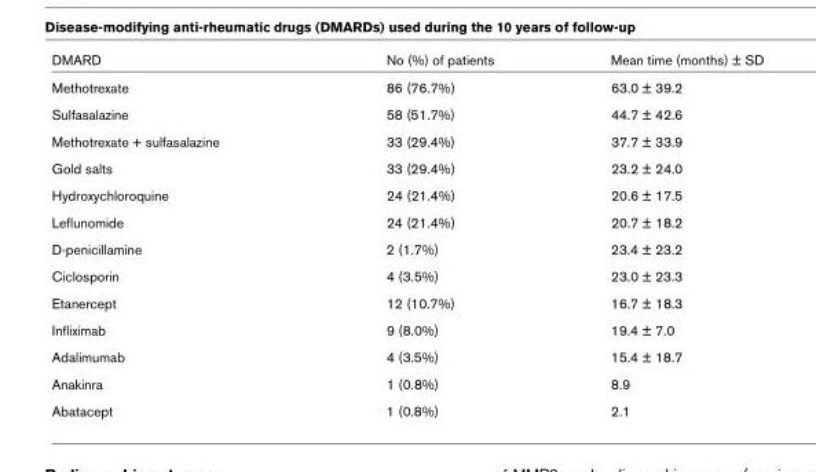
<table><thead><tr><td>DMARD</td><td>No (%) of patients</td><td>Mean time (months) ± SD</td></tr></thead><tbody><tr><td>Methotrexate</td><td>86 (76.7%)</td><td>63.0 ± 39.2</td></tr><tr><td>Sulfasalazine</td><td>58 (51.7%)</td><td>44.7 ± 42.6</td></tr><tr><td>Methotrexate + sulfasalazine</td><td>33 (29.4%)</td><td>37.7 ± 33.9</td></tr><tr><td>Gold salts</td><td>33 (29.4%)</td><td>23.2 ± 24.0</td></tr><tr><td>Hydroxychloroquine</td><td>24 (21.4%)</td><td>20.6 ± 17.5</td></tr><tr><td>Leflunomide</td><td>24 (21.4%)</td><td>20.7 ± 18.2</td></tr><tr><td>D-penicillamine</td><td>2 (1.7%)</td><td>23.4 ± 23.2</td></tr><tr><td>Ciclosporin</td><td>4 (3.5%)</td><td>23.0 ± 23.3</td></tr><tr><td>Etanercept</td><td>12 (10.7%)</td><td>16.7 ± 18.3</td></tr><tr><td>Infliximab</td><td>9 (8.0%)</td><td>19.4 ± 7.0</td></tr><tr><td>Adalimumab</td><td>4 (3.5%)</td><td>15.4 ± 18.7</td></tr><tr><td>Anakinra</td><td>1 (0.8%)</td><td>8.9</td></tr><tr><td>Abatacept</td><td>1 (0.8%)</td><td>2.1</td></tr></tbody></table>